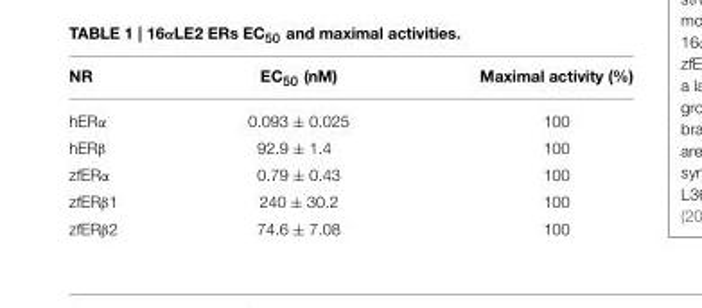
<table><thead><tr><td>NR</td><td>EC<sub>50</sub> (nM)</td><td>Maximal activity (%)</td></tr></thead><tbody><tr><td>hERα</td><td>0.093 ± 0.025</td><td>100</td></tr><tr><td>hERβ</td><td>92.9 ± 1.4</td><td>100</td></tr><tr><td>zfERα</td><td>0.79 ± 0.43</td><td>100</td></tr><tr><td>zfERβ1</td><td>240 ± 30.2</td><td>100</td></tr><tr><td>zfERβ2</td><td>74.6 ± 7.08</td><td>100</td></tr></tbody></table>